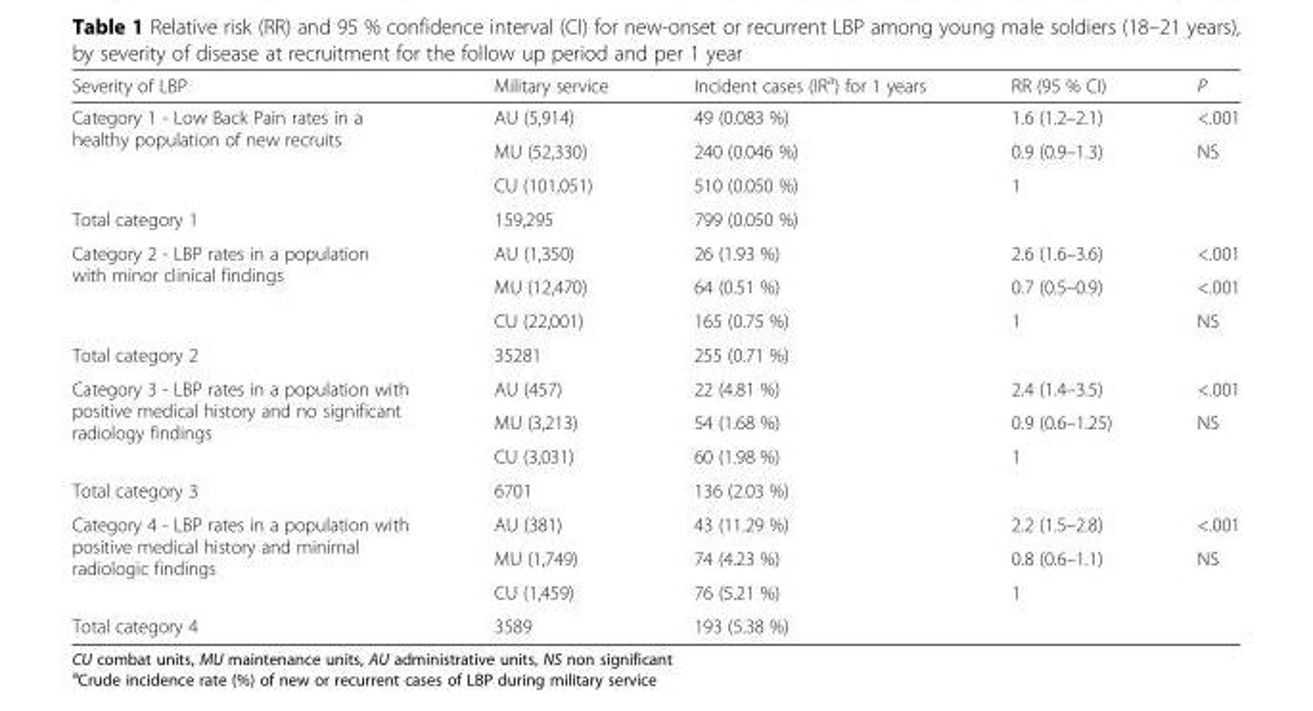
<table><thead><tr><td>Severity of LBP</td><td>Military service</td><td>Incident cases (IR<sup>a</sup>) for 1 years</td><td>RR (95 % CI)</td><td>P</td></tr></thead><tbody><tr><td rowspan="3">Category 1 - Low Back Pain rates in a healthy population of new recruits</td><td>AU (5,914)</td><td>49 (0.083 %)</td><td>1.6 (1.2–2.1)</td><td>&lt;.001</td></tr><tr><td>MU (52,330)</td><td>240 (0.046 %)</td><td>0.9 (0.9–1.3)</td><td>NS</td></tr><tr><td>CU (101,051)</td><td>510 (0.050 %)</td><td>1</td><td></td></tr><tr><td>Total category 1</td><td>159,295</td><td>799 (0.050 %)</td><td></td><td></td></tr><tr><td rowspan="3">Category 2 - LBP rates in a population with minor clinical findings</td><td>AU (1,350)</td><td>26 (1.93 %)</td><td>2.6 (1.6–3.6)</td><td>&lt;.001</td></tr><tr><td>MU (12,470)</td><td>64 (0.51 %)</td><td>0.7 (0.5–0.9)</td><td>&lt;.001</td></tr><tr><td>CU (22,001)</td><td>165 (0.75 %)</td><td>1</td><td>NS</td></tr><tr><td>Total category 2</td><td>35281</td><td>255 (0.71 %)</td><td></td><td></td></tr><tr><td rowspan="3">Category 3 - LBP rates in a population with positive medical history and no significant radiology findings</td><td>AU (457)</td><td>22 (4.81 %)</td><td>2.4 (1.4–3.5)</td><td>&lt;.001</td></tr><tr><td>MU (3,213)</td><td>54 (1.68 %)</td><td>0.9 (0.6–1.25)</td><td>NS</td></tr><tr><td>CU (3,031)</td><td>60 (1.98 %)</td><td>1</td><td></td></tr><tr><td>Total category 3</td><td>6701</td><td>136 (2.03 %)</td><td></td><td></td></tr><tr><td rowspan="3">Category 4 - LBP rates in a population with positive medical history and minimal radiologic findings</td><td>AU (381)</td><td>43 (11.29 %)</td><td>2.2 (1.5–2.8)</td><td>&lt;.001</td></tr><tr><td>MU (1,749)</td><td>74 (4.23 %)</td><td>0.8 (0.6–1.1)</td><td>NS</td></tr><tr><td>CU (1,459)</td><td>76 (5.21 %)</td><td>1</td><td></td></tr><tr><td>Total category 4</td><td>3589</td><td>193 (5.38 %)</td><td></td><td></td></tr></tbody></table>